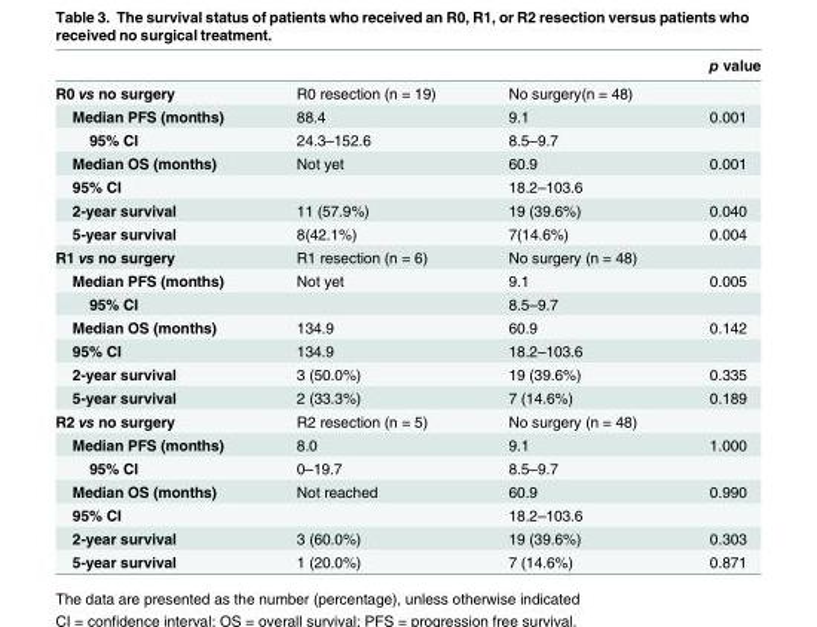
<table><thead><tr><td></td><td></td><td></td><td>p value</td></tr></thead><tbody><tr><td>R0 vs no surgery</td><td>R0 resection (n = 19)</td><td>No surgery(n = 48)</td><td></td></tr><tr><td>Median PFS (months)</td><td>88.4</td><td>9.1</td><td>0.001</td></tr><tr><td>95% CI</td><td>24.3–152.6</td><td>8.5–9.7</td><td></td></tr><tr><td>Median OS (months)</td><td>Not yet</td><td>60.9</td><td>0.001</td></tr><tr><td>95% CI</td><td></td><td>18.2–103.6</td><td></td></tr><tr><td>2-year survival</td><td>11 (57.9%)</td><td>19 (39.6%)</td><td>0.040</td></tr><tr><td>5-year survival</td><td>8(42.1%)</td><td>7(14.6%)</td><td>0.004</td></tr><tr><td>R1 vs no surgery</td><td>R1 resection (n = 6)</td><td>No surgery (n = 48)</td><td></td></tr><tr><td>Median PFS (months)</td><td>Not yet</td><td>9.1</td><td>0.005</td></tr><tr><td>95% CI</td><td></td><td>8.5–9.7</td><td></td></tr><tr><td>Median OS (months)</td><td>134.9</td><td>60.9</td><td>0.142</td></tr><tr><td>95% CI</td><td>134.9</td><td>18.2–103.6</td><td></td></tr><tr><td>2-year survival</td><td>3 (50.0%)</td><td>19 (39.6%)</td><td>0.335</td></tr><tr><td>5-year survival</td><td>2 (33.3%)</td><td>7 (14.6%)</td><td>0.189</td></tr><tr><td>R2 vs no surgery</td><td>R2 resection (n = 5)</td><td>No surgery (n = 48)</td><td></td></tr><tr><td>Median PFS (months)</td><td>8.0</td><td>9.1</td><td>1.000</td></tr><tr><td>95% CI</td><td>0–19.7</td><td>8.5–9.7</td><td></td></tr><tr><td>Median OS (months)</td><td>Not reached</td><td>60.9</td><td>0.990</td></tr><tr><td>95% CI</td><td></td><td>18.2–103.6</td><td></td></tr><tr><td>2-year survival</td><td>3 (60.0%)</td><td>19 (39.6%)</td><td>0.303</td></tr><tr><td>5-year survival</td><td>1 (20.0%)</td><td>7 (14.6%)</td><td>0.871</td></tr></tbody></table>